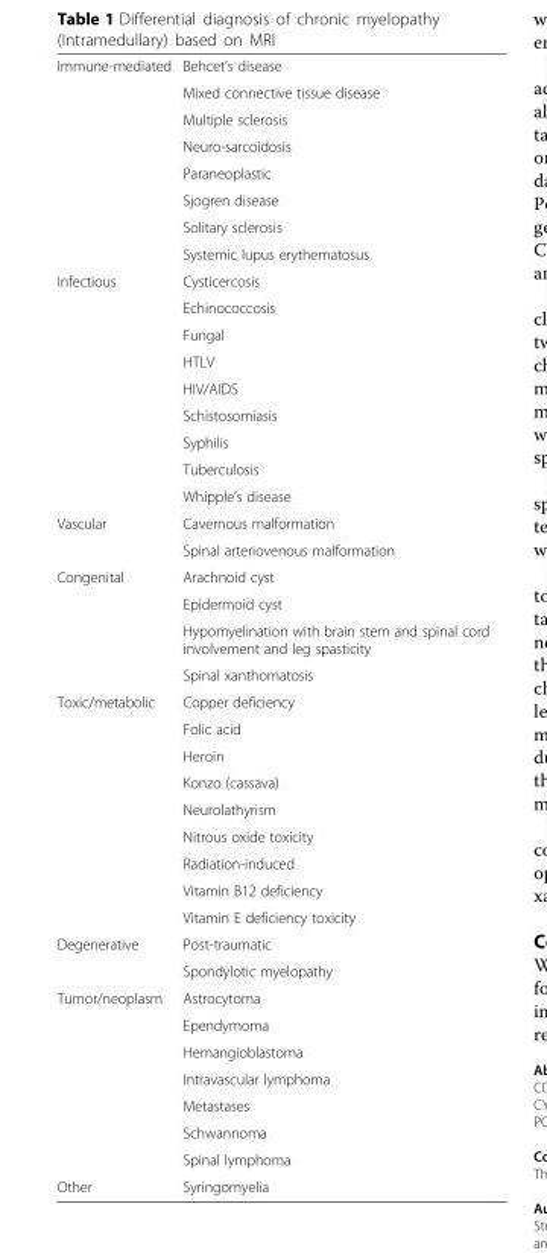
<table><tbody><tr><td rowspan="8">Immune-mediated</td><td>Behcet’s disease</td></tr><tr><td>Mixed connective tissue disease</td></tr><tr><td>Multiple sclerosis</td></tr><tr><td>Neuro-sarcoidosis</td></tr><tr><td>Paraneoplastic</td></tr><tr><td>Sjogren disease</td></tr><tr><td>Solitary sclerosis</td></tr><tr><td>Systemic lupus erythematosus</td></tr><tr><td rowspan="9">Infectious</td><td>Cysticercosis</td></tr><tr><td>Echinococcosis</td></tr><tr><td>Fungal</td></tr><tr><td>HTLV</td></tr><tr><td>HIV/AIDS</td></tr><tr><td>Schistosomiasis</td></tr><tr><td>Syphilis</td></tr><tr><td>Tuberculosis</td></tr><tr><td>Whipple’s disease</td></tr><tr><td rowspan="2">Vascular</td><td>Cavernous malformation</td></tr><tr><td>Spinal arteriovenous malformation</td></tr><tr><td rowspan="4">Congenital</td><td>Arachnoid cyst</td></tr><tr><td>Epidermoid cyst</td></tr><tr><td>Hypomyelination with brain stem and spinal cord involvement and leg spasticity</td></tr><tr><td>Spinal xanthomatosis</td></tr><tr><td rowspan="9">Toxic/metabolic</td><td>Copper deficiency</td></tr><tr><td>Folic acid</td></tr><tr><td>Heroin</td></tr><tr><td>Konzo (cassava)</td></tr><tr><td>Neurolathyrism</td></tr><tr><td>Nitrous oxide toxicity</td></tr><tr><td>Radiation-induced</td></tr><tr><td>Vitamin B12 deficiency</td></tr><tr><td>Vitamin E deficiency toxicity</td></tr><tr><td rowspan="2">Degenerative</td><td>Post-traumatic</td></tr><tr><td>Spondylotic myelopathy</td></tr><tr><td rowspan="7">Tumor/neoplasm</td><td>Astrocytoma</td></tr><tr><td>Ependymoma</td></tr><tr><td>Hemangioblastoma</td></tr><tr><td>Intravascular lymphoma</td></tr><tr><td>Metastases</td></tr><tr><td>Schwannoma</td></tr><tr><td>Spinal lymphoma</td></tr><tr><td>Other</td><td>Syringomyelia</td></tr></tbody></table>